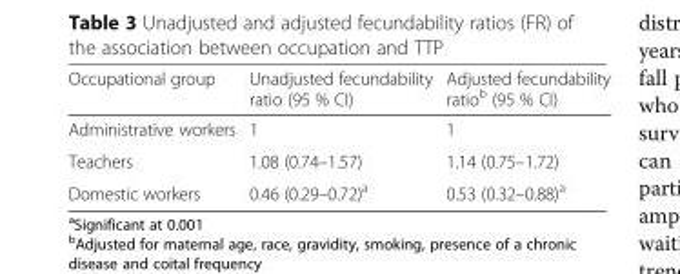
<table><thead><tr><td>Occupational group</td><td>Unadjusted fecundability ratio (95 % CI)</td><td>Adjusted fecundability ratio<sup>b</sup> (95 % CI)</td></tr></thead><tbody><tr><td>Administrative workers</td><td>1</td><td>1</td></tr><tr><td>Teachers</td><td>1.08 (0.74–1.57)</td><td>1.14 (0.75–1.72)</td></tr><tr><td>Domestic workers</td><td>0.46 (0.29–0.72)<sup>a</sup></td><td>0.53 (0.32–0.88)<sup>a</sup></td></tr></tbody></table>